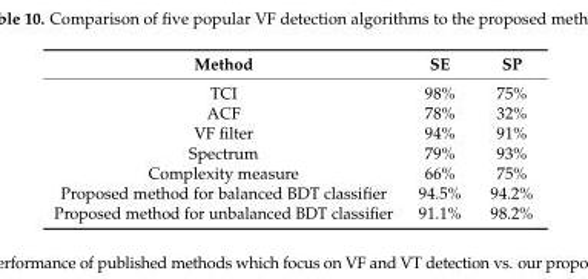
<table><thead><tr><td>Method</td><td>SE</td><td>SP</td></tr></thead><tbody><tr><td>TCI</td><td>98%</td><td>75%</td></tr><tr><td>ACF</td><td>78%</td><td>32%</td></tr><tr><td>VF filter</td><td>94%</td><td>91%</td></tr><tr><td>Spectrum</td><td>79%</td><td>93%</td></tr><tr><td>Complexity measure</td><td>66%</td><td>75%</td></tr><tr><td>Proposed method for balanced BDT classifier</td><td>94.5%</td><td>94.2%</td></tr><tr><td>Proposed method for unbalanced BDT classifier</td><td>91.1%</td><td>98.2%</td></tr></tbody></table>